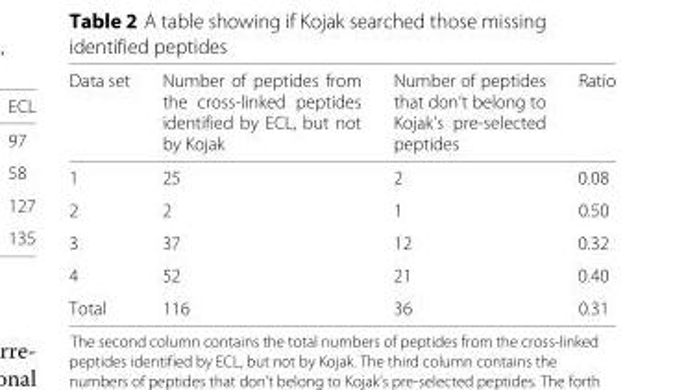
<table><thead><tr><td>Data set</td><td>Number of peptides from the cross-linked peptides identified by ECL, but not by Kojak</td><td>Number of peptides that don’t belong to Kojak’s pre-selected peptides</td><td>Ratio</td></tr></thead><tbody><tr><td>1</td><td>25</td><td>2</td><td>0.08</td></tr><tr><td>2</td><td>2</td><td>1</td><td>0.50</td></tr><tr><td>3</td><td>37</td><td>12</td><td>0.32</td></tr><tr><td>4</td><td>52</td><td>21</td><td>0.40</td></tr><tr><td>Total</td><td>116</td><td>36</td><td>0.31</td></tr></tbody></table>